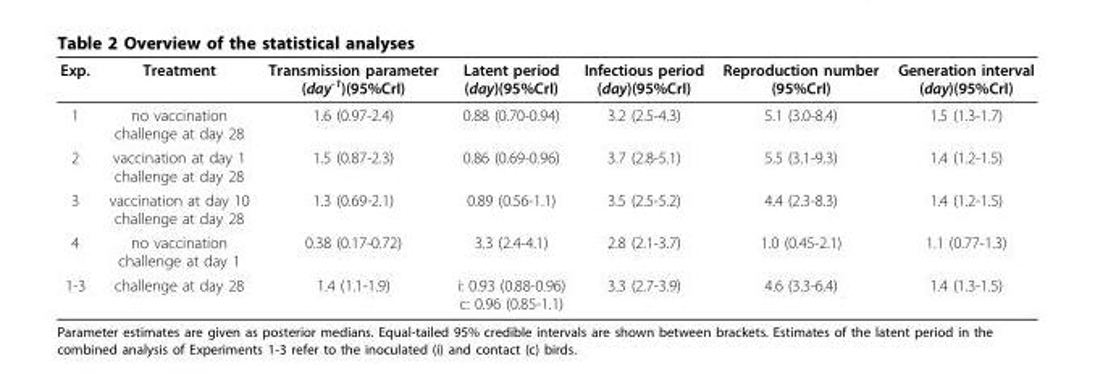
<table><thead><tr><td>Exp.</td><td>Treatment</td><td>Transmission parameter (day<sup>-1</sup>)(95%CrI)</td><td>Latent period (day)(95%CrI)</td><td>Infectious period (day)(95%CrI)</td><td>Reproduction number (95%CrI)</td><td>Generation interval (day)(95%CrI)</td></tr></thead><tbody><tr><td>1</td><td>no vaccination challenge at day 28</td><td>1.6 (0.97-2.4)</td><td>0.88 (0.70-0.94)</td><td>3.2 (2.5-4.3)</td><td>5.1 (3.0-8.4)</td><td>1.5 (1.3-1.7)</td></tr><tr><td>2</td><td>vaccination at day 1 challenge at day 28</td><td>1.5 (0.87-2.3)</td><td>0.86 (0.69-0.96)</td><td>3.7 (2.8-5.1)</td><td>5.5 (3.1-9.3)</td><td>1.4 (1.2-1.5)</td></tr><tr><td>3</td><td>vaccination at day 10 challenge at day 28</td><td>1.3 (0.69-2.1)</td><td>0.89 (0.56-1.1)</td><td>3.5 (2.5-5.2)</td><td>4.4 (2.3-8.3)</td><td>1.4 (1.2-1.5)</td></tr><tr><td>4</td><td>no vaccination challenge at day 1</td><td>0.38 (0.17-0.72)</td><td>3.3 (2.4-4.1)</td><td>2.8 (2.1-3.7)</td><td>1.0 (0.45-2.1)</td><td>1.1 (0.77-1.3)</td></tr><tr><td>1-3</td><td>challenge at day 28</td><td>1.4 (1.1-1.9)</td><td>i: 0.93 (0.88-0.96) c: 0.96 (0.85-1.1)</td><td>3.3 (2.7-3.9)</td><td>4.6 (3.3-6.4)</td><td>1.4 (1.3-1.5)</td></tr></tbody></table>